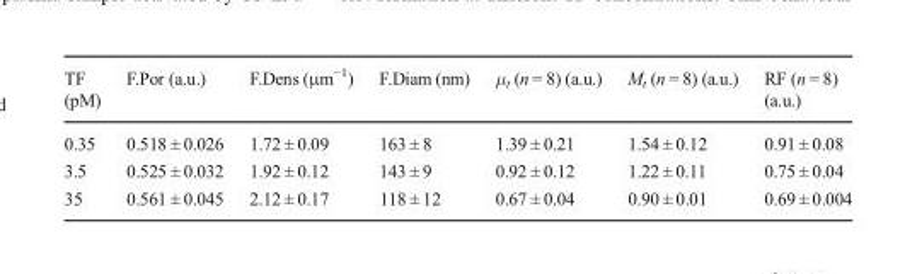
<table><thead><tr><td>TF (pM)</td><td>F.Por (a.u.)</td><td>F.Dens (μm<sup>−1</sup>)</td><td>F.Diam (nm)</td><td>μ<sub>t</sub> (n = 8) (a.u.)</td><td>M<sub>t</sub> (n = 8) (a.u.)</td><td>RF (n = 8) (a.u.)</td></tr></thead><tbody><tr><td>0.35</td><td>0.518 ± 0.026</td><td>1.72 ± 0.09</td><td>163 ± 8</td><td>1.39 ± 0.21</td><td>1.54 ± 0.12</td><td>0.91 ± 0.08</td></tr><tr><td>3.5</td><td>0.525 ± 0.032</td><td>1.92 ± 0.12</td><td>143 ± 9</td><td>0.92 ± 0.12</td><td>1.22 ± 0.11</td><td>0.75 ± 0.04</td></tr><tr><td>35</td><td>0.561 ± 0.045</td><td>2.12 ± 0.17</td><td>118 ± 12</td><td>0.67 ± 0.04</td><td>0.90 ± 0.01</td><td>0.69 ± 0.004</td></tr></tbody></table>